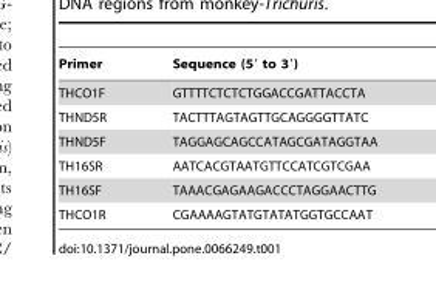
<table><thead><tr><td>Primer</td><td>Sequence (5′ to 3′)</td></tr></thead><tbody><tr><td>THCO1F</td><td>GTTTTCTCTCTGGACCGATTACCTA</td></tr><tr><td>THND5R</td><td>TACTTTAGTAGTTGCAGGGGTTATC</td></tr><tr><td>THND5F</td><td>TAGGAGCAGCCATAGCGATAGGTAA</td></tr><tr><td>TH16SR</td><td>AATCACGTAATGTTCCATCGTCGAA</td></tr><tr><td>TH16SF</td><td>TAAACGAGAAGACCCTAGGAACTTG</td></tr><tr><td>THCO1R</td><td>CGAAAAGTATGTATATGGTGCCAAT</td></tr></tbody></table>